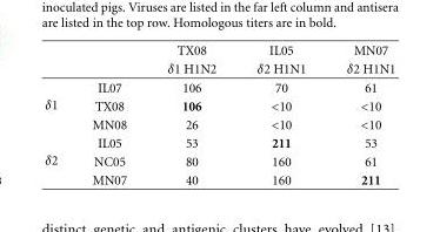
<table><thead><tr><td rowspan="2"></td><td rowspan="2"></td><td rowspan="2">TX08 δ1 H1N2</td><td rowspan="2">IL05 δ2 H1N1</td><td rowspan="2">MN07 δ2 H1N1</td></tr><tr></tr></thead><tbody><tr><td rowspan="3">δ1</td><td>IL07</td><td>106</td><td>70</td><td>61</td></tr><tr><td>TX08</td><td>106</td><td>&lt;10</td><td>&lt;10</td></tr><tr><td>MN08</td><td>26</td><td>&lt;10</td><td>&lt;10</td></tr><tr><td rowspan="3">δ2</td><td>IL05</td><td>53</td><td>211</td><td>53</td></tr><tr><td>NC05</td><td>80</td><td>160</td><td>61</td></tr><tr><td>MN07</td><td>40</td><td>160</td><td>211</td></tr></tbody></table>